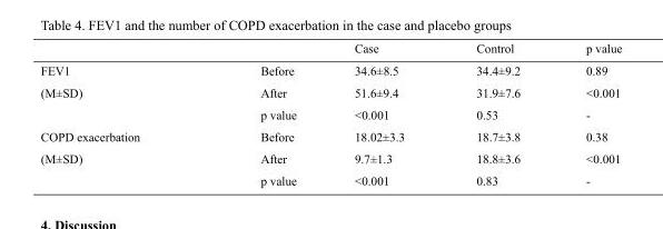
<table><thead><tr><td></td><td></td><td>Case</td><td>Control</td><td>p value</td></tr></thead><tbody><tr><td rowspan="3">FEV1 (M±SD)</td><td>Before</td><td>34.6±8.5</td><td>34.4±9.2</td><td>0.89</td></tr><tr><td>After</td><td>51.6±9.4</td><td>31.9±7.6</td><td>&lt;0.001</td></tr><tr><td>p value</td><td>&lt;0.001</td><td>0.53</td><td>-</td></tr><tr><td rowspan="3">COPD exacerbation (M±SD)</td><td>Before</td><td>18.02±3.3</td><td>18.7±3.8</td><td>0.38</td></tr><tr><td>After</td><td>9.7±1.3</td><td>18.8±3.6</td><td>&lt;0.001</td></tr><tr><td>p value</td><td>&lt;0.001</td><td>0.83</td><td>-</td></tr></tbody></table>